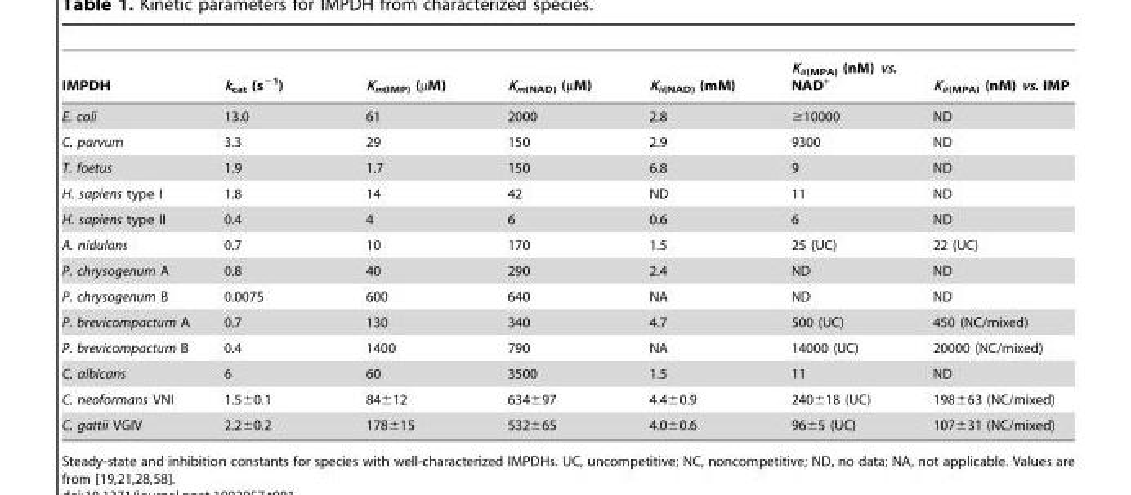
<table><thead><tr><td>IMPDH</td><td>k<sub>cat</sub> (s<sup>−1</sup>)</td><td>K<sub>m(IMP)</sub> (µM)</td><td>K<sub>m(NAD)</sub> (µM)</td><td>K<sub>ii(NAD)</sub> (mM)</td><td>K<sub>ii(MPA)</sub> (nM) vs. NAD<sup>+</sup></td><td>K<sub>ii(MPA)</sub> (nM) vs. IMP</td></tr></thead><tbody><tr><td>E. coli</td><td>13.0</td><td>61</td><td>2000</td><td>2.8</td><td>≥10000</td><td>ND</td></tr><tr><td>C. parvum</td><td>3.3</td><td>29</td><td>150</td><td>2.9</td><td>9300</td><td>ND</td></tr><tr><td>T. foetus</td><td>1.9</td><td>1.7</td><td>150</td><td>6.8</td><td>9</td><td>ND</td></tr><tr><td>H. sapiens type I</td><td>1.8</td><td>14</td><td>42</td><td>ND</td><td>11</td><td>ND</td></tr><tr><td>H. sapiens type II</td><td>0.4</td><td>4</td><td>6</td><td>0.6</td><td>6</td><td>ND</td></tr><tr><td>A. nidulans</td><td>0.7</td><td>10</td><td>170</td><td>1.5</td><td>25 (UC)</td><td>22 (UC)</td></tr><tr><td>P. chrysogenum A</td><td>0.8</td><td>40</td><td>290</td><td>2.4</td><td>ND</td><td>ND</td></tr><tr><td>P. chrysogenum B</td><td>0.0075</td><td>600</td><td>640</td><td>NA</td><td>ND</td><td>ND</td></tr><tr><td>P. brevicompactum A</td><td>0.7</td><td>130</td><td>340</td><td>4.7</td><td>500 (UC)</td><td>450 (NC/mixed)</td></tr><tr><td>P. brevicompactum B</td><td>0.4</td><td>1400</td><td>790</td><td>NA</td><td>14000 (UC)</td><td>20000 (NC/mixed)</td></tr><tr><td>C. albicans</td><td>6</td><td>60</td><td>3500</td><td>1.5</td><td>11</td><td>ND</td></tr><tr><td>C. neoformans VNI</td><td>1.5±0.1</td><td>84±12</td><td>634±97</td><td>4.4±0.9</td><td>240±18 (UC)</td><td>198±63 (NC/mixed)</td></tr><tr><td>C. gattii VGIV</td><td>2.2±0.2</td><td>178±15</td><td>532±65</td><td>4.0±0.6</td><td>96±5 (UC)</td><td>107±31 (NC/mixed)</td></tr></tbody></table>